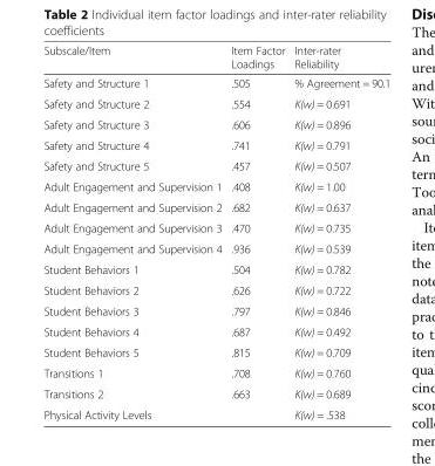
<table><thead><tr><td>Subscale/Item</td><td>Item Factor Loadings</td><td>Inter-rater Reliability</td></tr></thead><tbody><tr><td>Safety and Structure 1</td><td>.505</td><td>% Agreement = 90.1</td></tr><tr><td>Safety and Structure 2</td><td>.554</td><td>K(w) = 0.691</td></tr><tr><td>Safety and Structure 3</td><td>.606</td><td>K(w) = 0.896</td></tr><tr><td>Safety and Structure 4</td><td>.741</td><td>K(w) = 0.791</td></tr><tr><td>Safety and Structure 5</td><td>.457</td><td>K(w) = 0.507</td></tr><tr><td>Adult Engagement and Supervision 1</td><td>.408</td><td>K(w) = 1.00</td></tr><tr><td>Adult Engagement and Supervision 2</td><td>.682</td><td>K(w) = 0.637</td></tr><tr><td>Adult Engagement and Supervision 3</td><td>.470</td><td>K(w) = 0.735</td></tr><tr><td>Adult Engagement and Supervision 4</td><td>.936</td><td>K(w) = 0.539</td></tr><tr><td>Student Behaviors 1</td><td>.504</td><td>K(w) = 0.782</td></tr><tr><td>Student Behaviors 2</td><td>.626</td><td>K(w) = 0.722</td></tr><tr><td>Student Behaviors 3</td><td>.797</td><td>K(w) = 0.846</td></tr><tr><td>Student Behaviors 4</td><td>.687</td><td>K(w) = 0.492</td></tr><tr><td>Student Behaviors 5</td><td>.815</td><td>K(w) = 0.709</td></tr><tr><td>Transitions 1</td><td>.708</td><td>K(w) = 0.760</td></tr><tr><td>Transitions 2</td><td>.663</td><td>K(w) = 0.689</td></tr><tr><td>Physical Activity Levels</td><td></td><td>K(w) = .538</td></tr></tbody></table>